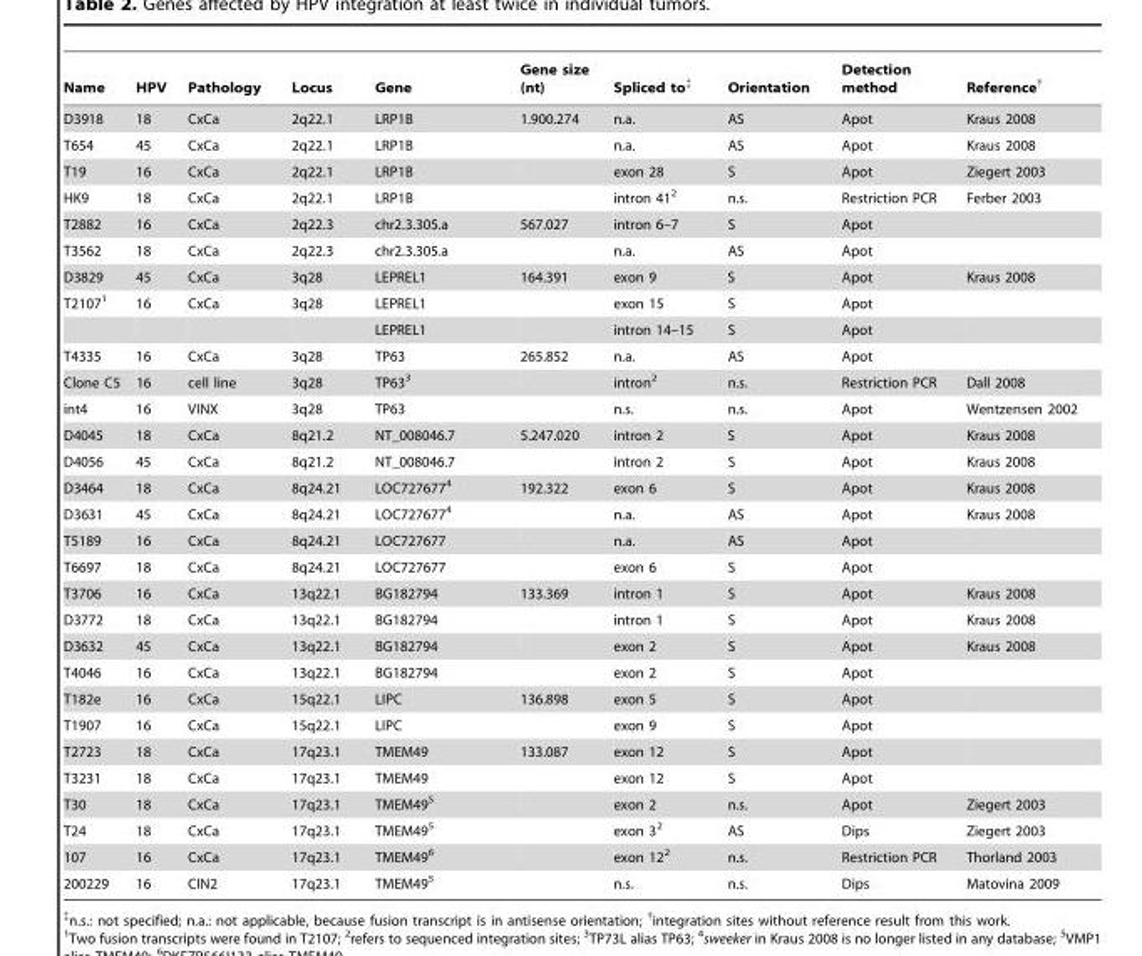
<table><thead><tr><td>Name</td><td>HPV</td><td>Pathology</td><td>Locus</td><td>Gene</td><td>Gene size (nt)</td><td>Spliced to‡</td><td>Orientation</td><td>Detection method</td><td>Reference<sup>†</sup></td></tr></thead><tbody><tr><td>D3918</td><td>18</td><td>CxCa</td><td>2q22.1</td><td>LRP1B</td><td>1.900.274</td><td>n.a.</td><td>AS</td><td>Apot</td><td>Kraus 2008</td></tr><tr><td>T654</td><td>45</td><td>CxCa</td><td>2q22.1</td><td>LRP1B</td><td></td><td>n.a.</td><td>AS</td><td>Apot</td><td>Kraus 2008</td></tr><tr><td>T19</td><td>16</td><td>CxCa</td><td>2q22.1</td><td>LRP1B</td><td></td><td>exon 28</td><td>S</td><td>Apot</td><td>Ziegert 2003</td></tr><tr><td>HK9</td><td>18</td><td>CxCa</td><td>2q22.1</td><td>LRP1B</td><td></td><td>intron 41<sup>2</sup></td><td>n.s.</td><td>Restriction PCR</td><td>Ferber 2003</td></tr><tr><td>T2882</td><td>16</td><td>CxCa</td><td>2q22.3</td><td>chr2.3.305.a</td><td>567.027</td><td>intron 6–7</td><td>S</td><td>Apot</td><td></td></tr><tr><td>T3562</td><td>18</td><td>CxCa</td><td>2q22.3</td><td>chr2.3.305.a</td><td></td><td>n.a.</td><td>AS</td><td>Apot</td><td></td></tr><tr><td>D3829</td><td>45</td><td>CxCa</td><td>3q28</td><td>LEPREL1</td><td>164.391</td><td>exon 9</td><td>S</td><td>Apot</td><td>Kraus 2008</td></tr><tr><td rowspan="2">T2107<sup>1</sup></td><td>16</td><td>CxCa</td><td>3q28</td><td>LEPREL1</td><td></td><td>exon 15</td><td>S</td><td>Apot</td><td></td></tr><tr><td></td><td></td><td></td><td>LEPREL1</td><td></td><td>intron 14–15</td><td>S</td><td>Apot</td><td></td></tr><tr><td>T4335</td><td>16</td><td>CxCa</td><td>3q28</td><td>TP63</td><td>265.852</td><td>n.a.</td><td>AS</td><td>Apot</td><td></td></tr><tr><td>Clone C5</td><td>16</td><td>cell line</td><td>3q28</td><td>TP63<sup>3</sup></td><td></td><td>intron<sup>2</sup></td><td>n.s.</td><td>Restriction PCR</td><td>Dall 2008</td></tr><tr><td>int4</td><td>16</td><td>VINX</td><td>3q28</td><td>TP63</td><td></td><td>n.s.</td><td>n.s.</td><td>Apot</td><td>Wentzensen 2002</td></tr><tr><td>D4045</td><td>18</td><td>CxCa</td><td>8q21.2</td><td>NT_008046.7</td><td>5.247.020</td><td>intron 2</td><td>S</td><td>Apot</td><td>Kraus 2008</td></tr><tr><td>D4056</td><td>45</td><td>CxCa</td><td>8q21.2</td><td>NT_008046.7</td><td></td><td>intron 2</td><td>S</td><td>Apot</td><td>Kraus 2008</td></tr><tr><td>D3464</td><td>18</td><td>CxCa</td><td>8q24.21</td><td>LOC727677<sup>4</sup></td><td>192.322</td><td>exon 6</td><td>S</td><td>Apot</td><td>Kraus 2008</td></tr><tr><td>D3631</td><td>45</td><td>CxCa</td><td>8q24.21</td><td>LOC727677<sup>4</sup></td><td></td><td>n.a.</td><td>AS</td><td>Apot</td><td>Kraus 2008</td></tr><tr><td>T5189</td><td>16</td><td>CxCa</td><td>8q24.21</td><td>LOC727677</td><td></td><td>n.a.</td><td>AS</td><td>Apot</td><td></td></tr><tr><td>T6697</td><td>18</td><td>CxCa</td><td>8q24.21</td><td>LOC727677</td><td></td><td>exon 6</td><td>S</td><td>Apot</td><td></td></tr><tr><td>T3706</td><td>16</td><td>CxCa</td><td>13q22.1</td><td>BG182794</td><td>133.369</td><td>intron 1</td><td>S</td><td>Apot</td><td>Kraus 2008</td></tr><tr><td>D3772</td><td>18</td><td>CxCa</td><td>13q22.1</td><td>BG182794</td><td></td><td>intron 1</td><td>S</td><td>Apot</td><td>Kraus 2008</td></tr><tr><td>D3632</td><td>45</td><td>CxCa</td><td>13q22.1</td><td>BG182794</td><td></td><td>exon 2</td><td>S</td><td>Apot</td><td>Kraus 2008</td></tr><tr><td>T4046</td><td>16</td><td>CxCa</td><td>13q22.1</td><td>BG182794</td><td></td><td>exon 2</td><td>S</td><td>Apot</td><td></td></tr><tr><td>T182e</td><td>16</td><td>CxCa</td><td>15q22.1</td><td>LIPC</td><td>136.898</td><td>exon 5</td><td>S</td><td>Apot</td><td></td></tr><tr><td>T1907</td><td>16</td><td>CxCa</td><td>15q22.1</td><td>LIPC</td><td></td><td>exon 9</td><td>S</td><td>Apot</td><td></td></tr><tr><td>T2723</td><td>18</td><td>CxCa</td><td>17q23.1</td><td>TMEM49</td><td>133.087</td><td>exon 12</td><td>S</td><td>Apot</td><td></td></tr><tr><td>T3231</td><td>18</td><td>CxCa</td><td>17q23.1</td><td>TMEM49</td><td></td><td>exon 12</td><td>S</td><td>Apot</td><td></td></tr><tr><td>T30</td><td>18</td><td>CxCa</td><td>17q23.1</td><td>TMEM49<sup>5</sup></td><td></td><td>exon 2</td><td>n.s.</td><td>Apot</td><td>Ziegert 2003</td></tr><tr><td>T24</td><td>18</td><td>CxCa</td><td>17q23.1</td><td>TMEM49<sup>5</sup></td><td></td><td>exon 3<sup>2</sup></td><td>AS</td><td>Dips</td><td>Ziegert 2003</td></tr><tr><td>107</td><td>16</td><td>CxCa</td><td>17q23.1</td><td>TMEM49<sup>6</sup></td><td></td><td>exon 12<sup>2</sup></td><td>n.s.</td><td>Restriction PCR</td><td>Thorland 2003</td></tr><tr><td>200229</td><td>16</td><td>CIN2</td><td>17q23.1</td><td>TMEM49<sup>5</sup></td><td></td><td>n.s.</td><td>n.s.</td><td>Dips</td><td>Matovina 2009</td></tr></tbody></table>